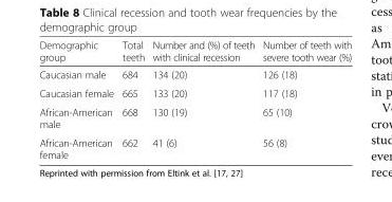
<table><thead><tr><td>Demographic group</td><td>Total teeth</td><td>Number and (%) of teeth with clinical recession</td><td>Number of teeth with severe tooth wear (%)</td></tr></thead><tbody><tr><td>Caucasian male</td><td>684</td><td>134 (20)</td><td>126 (18)</td></tr><tr><td>Caucasian female</td><td>665</td><td>133 (20)</td><td>117 (18)</td></tr><tr><td>African-American male</td><td>668</td><td>130 (19)</td><td>65 (10)</td></tr><tr><td>African-American female</td><td>662</td><td>41 (6)</td><td>56 (8)</td></tr></tbody></table>